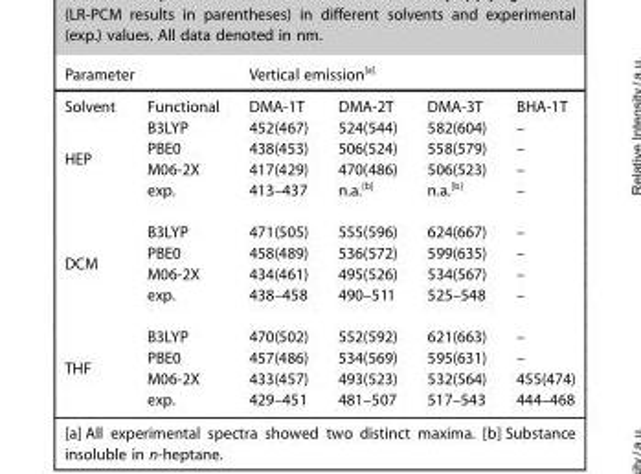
<table><thead><tr><td rowspan="2">Parameter Solvent</td><td rowspan="2">Functional</td><td colspan="2">Vertical emission<sup>[a]</sup></td><td rowspan="2">DMA-3T</td><td rowspan="2">BHA-1T</td></tr><tr><td>DMA-1T</td><td>DMA-2T</td></tr></thead><tbody><tr><td rowspan="4">HEP</td><td>B3LYP</td><td>452(467)</td><td>524(544)</td><td>582(604)</td><td>–</td></tr><tr><td>PBE0</td><td>438(453)</td><td>506(524)</td><td>558(579)</td><td>–</td></tr><tr><td>M06-2X</td><td>417(429)</td><td>470(486)</td><td>506(523)</td><td>–</td></tr><tr><td>exp.</td><td>413–437</td><td>n.a.<sup>[b]</sup></td><td>n.a.<sup>[b]</sup></td><td>–</td></tr><tr><td rowspan="4">DCM</td><td>B3LYP</td><td>471(505)</td><td>555(596)</td><td>624(667)</td><td>–</td></tr><tr><td>PBE0</td><td>458(489)</td><td>536(572)</td><td>599(635)</td><td>–</td></tr><tr><td>M06-2X</td><td>434(461)</td><td>495(526)</td><td>534(567)</td><td>–</td></tr><tr><td>exp.</td><td>438–458</td><td>490–511</td><td>525–548</td><td>–</td></tr><tr><td rowspan="4">THF</td><td>B3LYP</td><td>470(502)</td><td>552(592)</td><td>621(663)</td><td>–</td></tr><tr><td>PBE0</td><td>457(486)</td><td>534(569)</td><td>595(631)</td><td>–</td></tr><tr><td>M06-2X</td><td>433(457)</td><td>493(523)</td><td>532(564)</td><td>455(474)</td></tr><tr><td>exp.</td><td>429–451</td><td>481–507</td><td>517–543</td><td>444–468</td></tr></tbody></table>